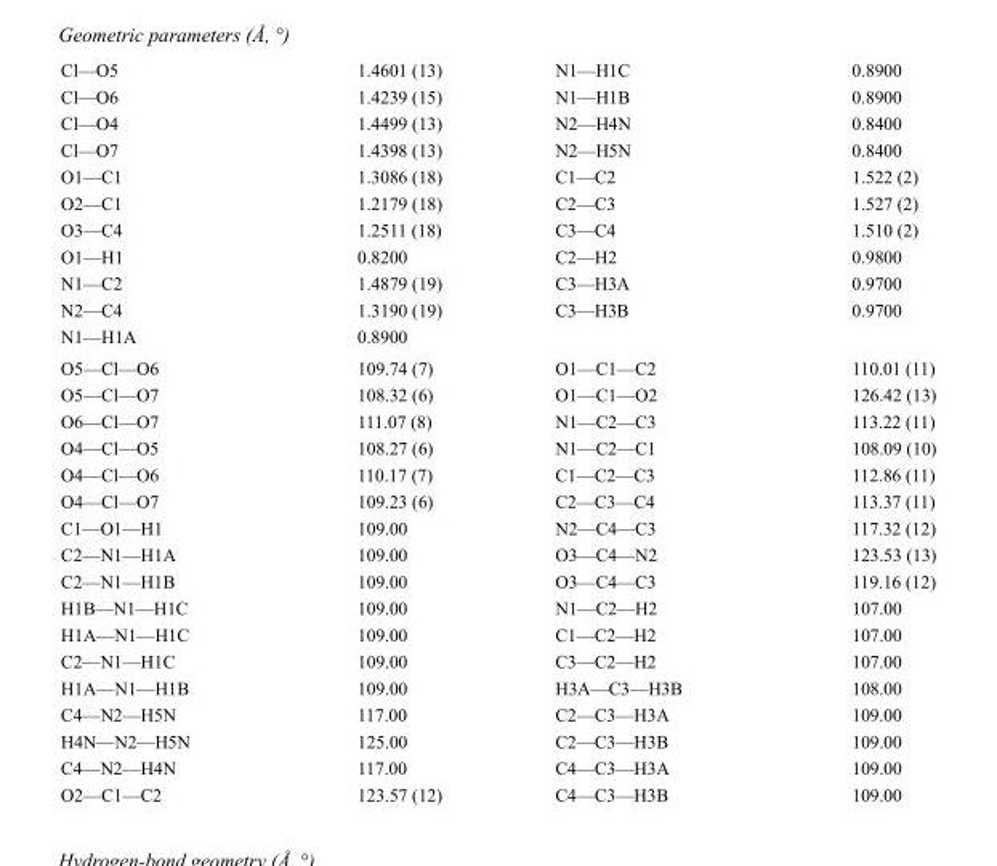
<table><tbody><tr><td>Cl—O5</td><td>1.4601 (13)</td><td>N1—H1C</td><td>0.8900</td></tr><tr><td>Cl—O6</td><td>1.4239 (15)</td><td>N1—H1B</td><td>0.8900</td></tr><tr><td>Cl—O4</td><td>1.4499 (13)</td><td>N2—H4N</td><td>0.8400</td></tr><tr><td>Cl—O7</td><td>1.4398 (13)</td><td>N2—H5N</td><td>0.8400</td></tr><tr><td>O1—C1</td><td>1.3086 (18)</td><td>C1—C2</td><td>1.522 (2)</td></tr><tr><td>O2—C1</td><td>1.2179 (18)</td><td>C2—C3</td><td>1.527 (2)</td></tr><tr><td>O3—C4</td><td>1.2511 (18)</td><td>C3—C4</td><td>1.510 (2)</td></tr><tr><td>O1—H1</td><td>0.8200</td><td>C2—H2</td><td>0.9800</td></tr><tr><td>N1—C2</td><td>1.4879 (19)</td><td>C3—H3A</td><td>0.9700</td></tr><tr><td>N2—C4</td><td>1.3190 (19)</td><td>C3—H3B</td><td>0.9700</td></tr><tr><td>N1—H1A</td><td>0.8900</td><td></td><td></td></tr><tr><td>O5—Cl—O6</td><td>109.74 (7)</td><td>O1—C1—C2</td><td>110.01 (11)</td></tr><tr><td>O5—Cl—O7</td><td>108.32 (6)</td><td>O1—C1—O2</td><td>126.42 (13)</td></tr><tr><td>O6—Cl—O7</td><td>111.07 (8)</td><td>N1—C2—C3</td><td>113.22 (11)</td></tr><tr><td>O4—Cl—O5</td><td>108.27 (6)</td><td>N1—C2—C1</td><td>108.09 (10)</td></tr><tr><td>O4—Cl—O6</td><td>110.17 (7)</td><td>C1—C2—C3</td><td>112.86 (11)</td></tr><tr><td>O4—Cl—O7</td><td>109.23 (6)</td><td>C2—C3—C4</td><td>113.37 (11)</td></tr><tr><td>C1—O1—H1</td><td>109.00</td><td>N2—C4—C3</td><td>117.32 (12)</td></tr><tr><td>C2—N1—H1A</td><td>109.00</td><td>O3—C4—N2</td><td>123.53 (13)</td></tr><tr><td>C2—N1—H1B</td><td>109.00</td><td>O3—C4—C3</td><td>119.16 (12)</td></tr><tr><td>H1B—N1—H1C</td><td>109.00</td><td>N1—C2—H2</td><td>107.00</td></tr><tr><td>H1A—N1—H1C</td><td>109.00</td><td>C1—C2—H2</td><td>107.00</td></tr><tr><td>C2—N1—H1C</td><td>109.00</td><td>C3—C2—H2</td><td>107.00</td></tr><tr><td>H1A—N1—H1B</td><td>109.00</td><td>H3A—C3—H3B</td><td>108.00</td></tr><tr><td>C4—N2—H5N</td><td>117.00</td><td>C2—C3—H3A</td><td>109.00</td></tr><tr><td>H4N—N2—H5N</td><td>125.00</td><td>C2—C3—H3B</td><td>109.00</td></tr><tr><td>C4—N2—H4N</td><td>117.00</td><td>C4—C3—H3A</td><td>109.00</td></tr><tr><td>O2—C1—C2</td><td>123.57 (12)</td><td>C4—C3—H3B</td><td>109.00</td></tr></tbody></table>